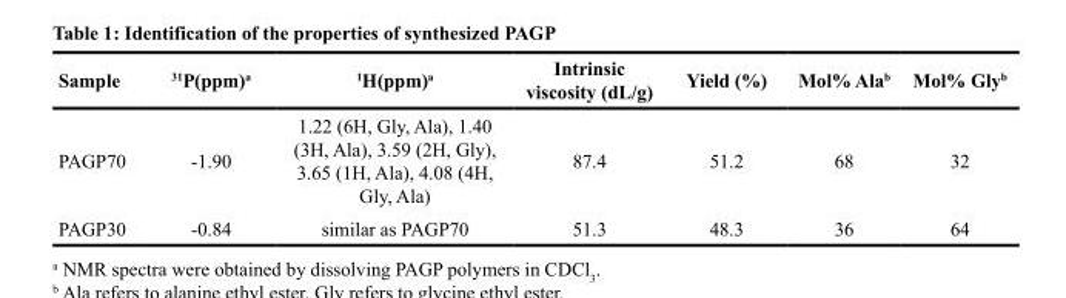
<table><thead><tr><td>Sample</td><td><sup>31</sup>P(ppm)<sup>a</sup></td><td><sup>1</sup>H(ppm)<sup>a</sup></td><td>Intrinsic viscosity (dL/g)</td><td>Yield (%)</td><td>Mol% Ala<sup>b</sup></td><td>Mol% Gly<sup>b</sup></td></tr></thead><tbody><tr><td>PAGP70</td><td>-1.90</td><td>1.22 (6H, Gly, Ala), 1.40 (3H, Ala), 3.59 (2H, Gly), 3.65 (1H, Ala), 4.08 (4H, Gly, Ala)</td><td>87.4</td><td>51.2</td><td>68</td><td>32</td></tr><tr><td>PAGP30</td><td>-0.84</td><td>similar as PAGP70</td><td>51.3</td><td>48.3</td><td>36</td><td>64</td></tr></tbody></table>